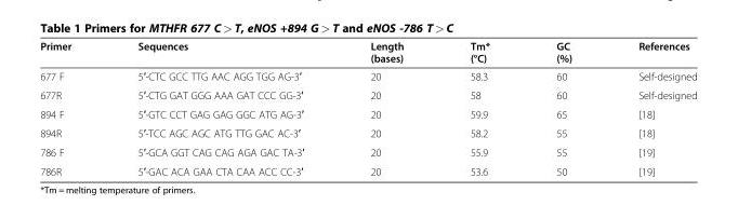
<table><thead><tr><td>Primer</td><td>Sequences</td><td>Length (bases)</td><td>Tm* (°C)</td><td>GC (%)</td><td>References</td></tr></thead><tbody><tr><td>677 F</td><td>5′-CTC GCC TTG AAC AGG TGG AG-3′</td><td>20</td><td>58.3</td><td>60</td><td>Self-designed</td></tr><tr><td>677R</td><td>5′-CTG GAT GGG AAA GAT CCC GG-3′</td><td>20</td><td>58</td><td>60</td><td>Self-designed</td></tr><tr><td>894 F</td><td>5′-GTC CCT GAG GAG GGC ATG AG-3′</td><td>20</td><td>59.9</td><td>65</td><td>[18]</td></tr><tr><td>894R</td><td>5′-TCC AGC AGC ATG TTG GAC AC-3′</td><td>20</td><td>58.2</td><td>55</td><td>[18]</td></tr><tr><td>786 F</td><td>5′-GCA GGT CAG CAG AGA GAC TA-3′</td><td>20</td><td>55.9</td><td>55</td><td>[19]</td></tr><tr><td>786R</td><td>5′-GAC ACA GAA CTA CAA ACC CC-3′</td><td>20</td><td>53.6</td><td>50</td><td>[19]</td></tr></tbody></table>